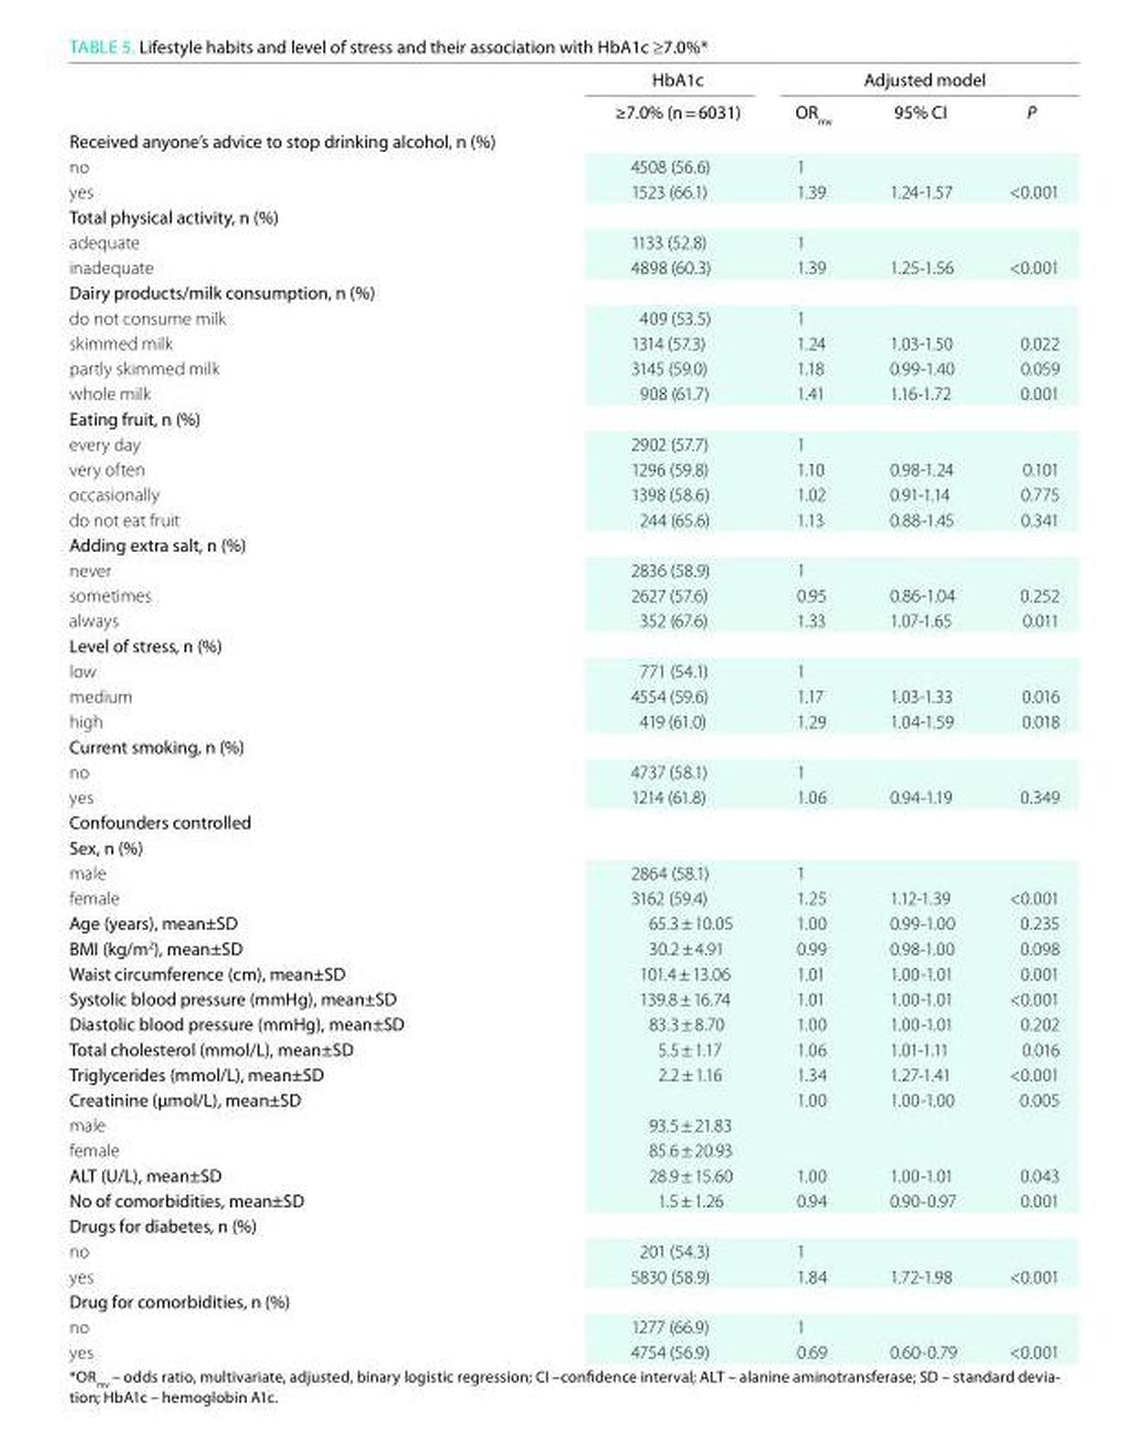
<table><thead><tr><td rowspan="2"></td><td rowspan="2">hba1c ≥7.0% (n = 6031)</td><td colspan="3">adjusted model</td></tr><tr><td>oR<sub>mv</sub></td><td>95% ci</td><td>P</td></tr></thead><tbody><tr><td colspan="5">Received anyone’s advice to stop drinking alcohol, n (%)</td></tr><tr><td>no</td><td>4508 (56.6)</td><td>1</td><td></td><td></td></tr><tr><td>yes</td><td>1523 (66.1)</td><td>1.39</td><td>1.24-1.57</td><td>&lt;0.001</td></tr><tr><td colspan="5">total physical activity, n (%)</td></tr><tr><td>adequate</td><td>1133 (52.8)</td><td>1</td><td></td><td></td></tr><tr><td>inadequate</td><td>4898 (60.3)</td><td>1.39</td><td>1.25-1.56</td><td>&lt;0.001</td></tr><tr><td colspan="5">Dairy products/milk consumption, n (%)</td></tr><tr><td>do not consume milk</td><td>409 (53.5)</td><td>1</td><td></td><td></td></tr><tr><td>skimmed milk</td><td>1314 (57.3)</td><td>1.24</td><td>1.03-1.50</td><td>0.022</td></tr><tr><td>partly skimmed milk</td><td>3145 (59.0)</td><td>1.18</td><td>0.99-1.40</td><td>0.059</td></tr><tr><td>whole milk</td><td>908 (61.7)</td><td>1.41</td><td>1.16-1.72</td><td>0.001</td></tr><tr><td colspan="5">eating fruit, n (%)</td></tr><tr><td>every day</td><td>2902 (57.7)</td><td>1</td><td></td><td></td></tr><tr><td>very often</td><td>1296 (59.8)</td><td>1.10</td><td>0.98-1.24</td><td>0.101</td></tr><tr><td>occasionally</td><td>1398 (58.6)</td><td>1.02</td><td>0.91-1.14</td><td>0.775</td></tr><tr><td>do not eat fruit</td><td>244 (65.6)</td><td>1.13</td><td>0.88-1.45</td><td>0.341</td></tr><tr><td colspan="5">adding extra salt, n (%)</td></tr><tr><td>never</td><td>2836 (58.9)</td><td>1</td><td></td><td></td></tr><tr><td>sometimes</td><td>2627 (57.6)</td><td>0.95</td><td>0.86-1.04</td><td>0.252</td></tr><tr><td>always</td><td>352 (67.6)</td><td>1.33</td><td>1.07-1.65</td><td>0.011</td></tr><tr><td colspan="5">Level of stress, n (%)</td></tr><tr><td>low</td><td>771 (54.1)</td><td>1</td><td></td><td></td></tr><tr><td>medium</td><td>4554 (59.6)</td><td>1.17</td><td>1.03-1.33</td><td>0.016</td></tr><tr><td>high</td><td>419 (61.0)</td><td>1.29</td><td>1.04-1.59</td><td>0.018</td></tr><tr><td colspan="5">current smoking, n (%)</td></tr><tr><td>no</td><td>4737 (58.1)</td><td>1</td><td></td><td></td></tr><tr><td>yes</td><td>1214 (61.8)</td><td>1.06</td><td>0.94-1.19</td><td>0.349</td></tr><tr><td colspan="5">confounders controlled</td></tr><tr><td colspan="5">sex, n (%)</td></tr><tr><td>male</td><td>2864 (58.1)</td><td>1</td><td></td><td></td></tr><tr><td>female</td><td>3162 (59.4)</td><td>1.25</td><td>1.12-1.39</td><td>&lt;0.001</td></tr><tr><td>age (years), mean±sD</td><td>65.3 ± 10.05</td><td>1.00</td><td>0.99-1.00</td><td>0.235</td></tr><tr><td>BMi (kg/m<sup>2</sup>), mean±sD</td><td>30.2 ± 4.91</td><td>0.99</td><td>0.98-1.00</td><td>0.098</td></tr><tr><td>Waist circumference (cm), mean±sD</td><td>101.4 ± 13.06</td><td>1.01</td><td>1.00-1.01</td><td>0.001</td></tr><tr><td>systolic blood pressure (mmhg), mean±sD</td><td>139.8 ± 16.74</td><td>1.01</td><td>1.00-1.01</td><td>&lt;0.001</td></tr><tr><td>Diastolic blood pressure (mmhg), mean±sD</td><td>83.3 ± 8.70</td><td>1.00</td><td>1.00-1.01</td><td>0.202</td></tr><tr><td>total cholesterol (mmol/L), mean±sD</td><td>5.5 ± 1.17</td><td>1.06</td><td>1.01-1.11</td><td>0.016</td></tr><tr><td>triglycerides (mmol/L), mean±sD</td><td>2.2 ± 1.16</td><td>1.34</td><td>1.27-1.41</td><td>&lt;0.001</td></tr><tr><td>creatinine (µmol/L), mean±sD</td><td></td><td>1.00</td><td>1.00-1.00</td><td>0.005</td></tr><tr><td>male</td><td>93.5 ± 21.83</td><td></td><td></td><td></td></tr><tr><td>female</td><td>85.6 ± 20.93</td><td></td><td></td><td></td></tr><tr><td>aLt (u/L), mean±sD</td><td>28.9 ± 15.60</td><td>1.00</td><td>1.00-1.01</td><td>0.043</td></tr><tr><td>no of comorbidities, mean±sD</td><td>1.5 ± 1.26</td><td>0.94</td><td>0.90-0.97</td><td>0.001</td></tr><tr><td colspan="5">Drugs for diabetes, n (%)</td></tr><tr><td>no</td><td>201 (54.3)</td><td>1</td><td></td><td></td></tr><tr><td>yes</td><td>5830 (58.9)</td><td>1.84</td><td>1.72-1.98</td><td>&lt;0.001</td></tr><tr><td colspan="5">Drug for comorbidities, n (%)</td></tr><tr><td>no</td><td>1277 (66.9)</td><td>1</td><td></td><td></td></tr><tr><td>yes</td><td>4754 (56.9)</td><td>0.69</td><td>0.60-0.79</td><td>&lt;0.001</td></tr></tbody></table>